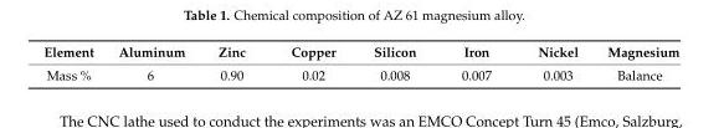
<table><thead><tr><td>Element</td><td>Aluminum</td><td>Zinc</td><td>Copper</td><td>Silicon</td><td>Iron</td><td>Nickel</td><td>Magnesium</td></tr></thead><tbody><tr><td>Mass %</td><td>6</td><td>0.90</td><td>0.02</td><td>0.008</td><td>0.007</td><td>0.003</td><td>Balance</td></tr></tbody></table>